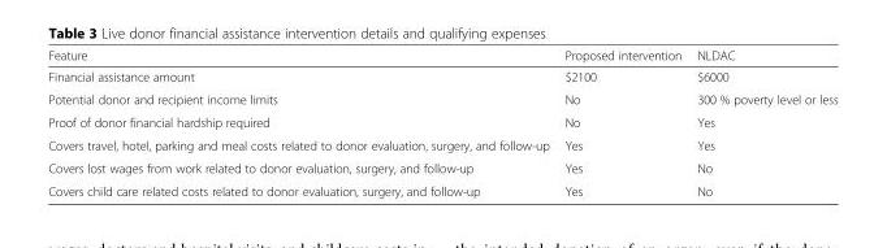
<table><thead><tr><td>Feature</td><td>Proposed intervention</td><td>NLDAC</td></tr></thead><tbody><tr><td>Financial assistance amount</td><td>$2100</td><td>$6000</td></tr><tr><td>Potential donor and recipient income limits</td><td>No</td><td>300 % poverty level or less</td></tr><tr><td>Proof of donor financial hardship required</td><td>No</td><td>Yes</td></tr><tr><td>Covers travel, hotel, parking and meal costs related to donor evaluation, surgery, and follow-up</td><td>Yes</td><td>Yes</td></tr><tr><td>Covers lost wages from work related to donor evaluation, surgery, and follow-up</td><td>Yes</td><td>No</td></tr><tr><td>Covers child care related costs related to donor evaluation, surgery, and follow-up</td><td>Yes</td><td>No</td></tr></tbody></table>